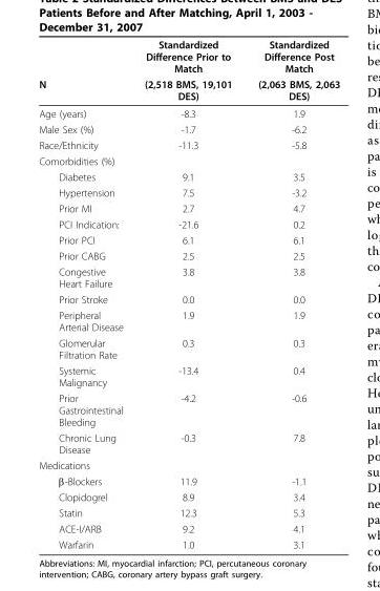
<table><thead><tr><td rowspan="2">N</td><td rowspan="2">Standardized Difference Prior to Match (2,518 BMS, 19,101 DES)</td><td rowspan="2">Standardized Difference Post Match (2,063 BMS, 2,063 DES)</td></tr><tr></tr></thead><tbody><tr><td>Age (years)</td><td>-8.3</td><td>1.9</td></tr><tr><td>Male Sex (%)</td><td>-1.7</td><td>-6.2</td></tr><tr><td>Race/Ethnicity</td><td>-11.3</td><td>-5.8</td></tr><tr><td colspan="3">Comorbidities (%)</td></tr><tr><td>Diabetes</td><td>9.1</td><td>3.5</td></tr><tr><td>Hypertension</td><td>7.5</td><td>-3.2</td></tr><tr><td>Prior MI</td><td>2.7</td><td>4.7</td></tr><tr><td>PCI Indication:</td><td>-21.6</td><td>0.2</td></tr><tr><td>Prior PCI</td><td>6.1</td><td>6.1</td></tr><tr><td>Prior CABG</td><td>2.5</td><td>2.5</td></tr><tr><td>Congestive Heart Failure</td><td>3.8</td><td>3.8</td></tr><tr><td>Prior Stroke</td><td>0.0</td><td>0.0</td></tr><tr><td>Peripheral Arterial Disease</td><td>1.9</td><td>1.9</td></tr><tr><td>Glomerular Filtration Rate</td><td>0.3</td><td>0.3</td></tr><tr><td>Systemic Malignancy</td><td>-13.4</td><td>0.4</td></tr><tr><td>Prior Gastrointestinal Bleeding</td><td>-4.2</td><td>-0.6</td></tr><tr><td>Chronic Lung Disease</td><td>-0.3</td><td>7.8</td></tr><tr><td colspan="3">Medications</td></tr><tr><td>β-Blockers</td><td>11.9</td><td>-1.1</td></tr><tr><td>Clopidogrel</td><td>8.9</td><td>3.4</td></tr><tr><td>Statin</td><td>12.3</td><td>5.3</td></tr><tr><td>ACE-I/ARB</td><td>9.2</td><td>4.1</td></tr><tr><td>Warfarin</td><td>1.0</td><td>3.1</td></tr></tbody></table>